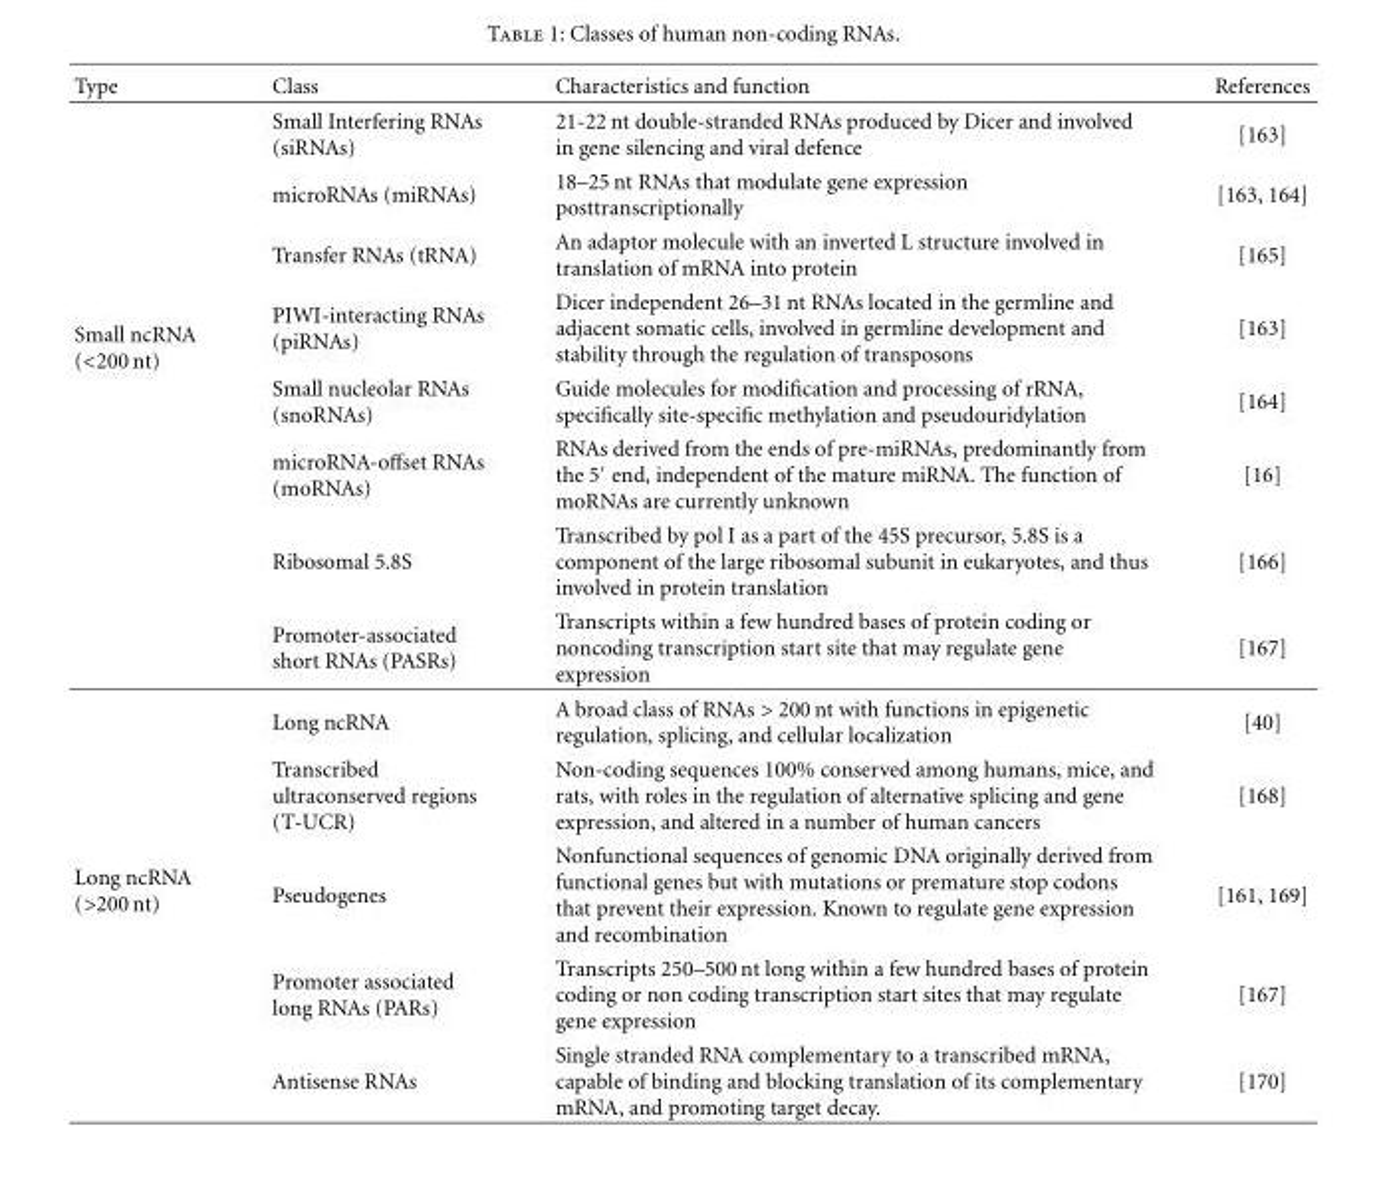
<table><thead><tr><td>Type</td><td>Class</td><td>Characteristics and function</td><td>References</td></tr></thead><tbody><tr><td rowspan="8">Small ncRNA (&lt;200 nt)</td><td>Small Interfering RNAs (siRNAs)</td><td>21-22 nt double-stranded RNAs produced by Dicer and involved in gene silencing and viral defence</td><td>[163]</td></tr><tr><td>microRNAs (miRNAs)</td><td>18–25 nt RNAs that modulate gene expression posttranscriptionally</td><td>[163, 164]</td></tr><tr><td>Transfer RNAs (tRNA)</td><td>An adaptor molecule with an inverted L structure involved in translation of mRNA into protein</td><td>[165]</td></tr><tr><td>PIWI-interacting RNAs (piRNAs)</td><td>Dicer independent 26–31 nt RNAs located in the germline and adjacent somatic cells, involved in germline development and stability through the regulation of transposons</td><td>[163]</td></tr><tr><td>Small nucleolar RNAs (snoRNAs)</td><td>Guide molecules for modification and processing of rRNA, specifically site-specific methylation and pseudouridylation</td><td>[164]</td></tr><tr><td>microRNA-offset RNAs (moRNAs)</td><td>RNAs derived from the ends of pre-miRNAs, predominantly from the 5′ end, independent of the mature miRNA. The function of moRNAs are currently unknown</td><td>[16]</td></tr><tr><td>Ribosomal 5.8S</td><td>Transcribed by pol I as a part of the 45S precursor, 5.8S is a component of the large ribosomal subunit in eukaryotes, and thus involved in protein translation</td><td>[166]</td></tr><tr><td>Promoter-associated short RNAs (PASRs)</td><td>Transcripts within a few hundred bases of protein coding or noncoding transcription start site that may regulate gene expression</td><td>[167]</td></tr><tr><td rowspan="5">Long ncRNA (&gt;200 nt)</td><td>Long ncRNA</td><td>A broad class of RNAs &gt; 200 nt with functions in epigenetic regulation, splicing, and cellular localization</td><td>[40]</td></tr><tr><td>Transcribed ultraconserved regions (T-UCR)</td><td>Non-coding sequences 100% conserved among humans, mice, and rats, with roles in the regulation of alternative splicing and gene expression, and altered in a number of human cancers</td><td>[168]</td></tr><tr><td>Pseudogenes</td><td>Nonfunctional sequences of genomic DNA originally derived from functional genes but with mutations or premature stop codons that prevent their expression. Known to regulate gene expression and recombination</td><td>[161, 169]</td></tr><tr><td>Promoter associated long RNAs (PARs)</td><td>Transcripts 250–500 nt long within a few hundred bases of protein coding or non coding transcription start sites that may regulate gene expression</td><td>[167]</td></tr><tr><td>Antisense RNAs</td><td>Single stranded RNA complementary to a transcribed mRNA, capable of binding and blocking translation of its complementary mRNA, and promoting target decay.</td><td>[170]</td></tr></tbody></table>